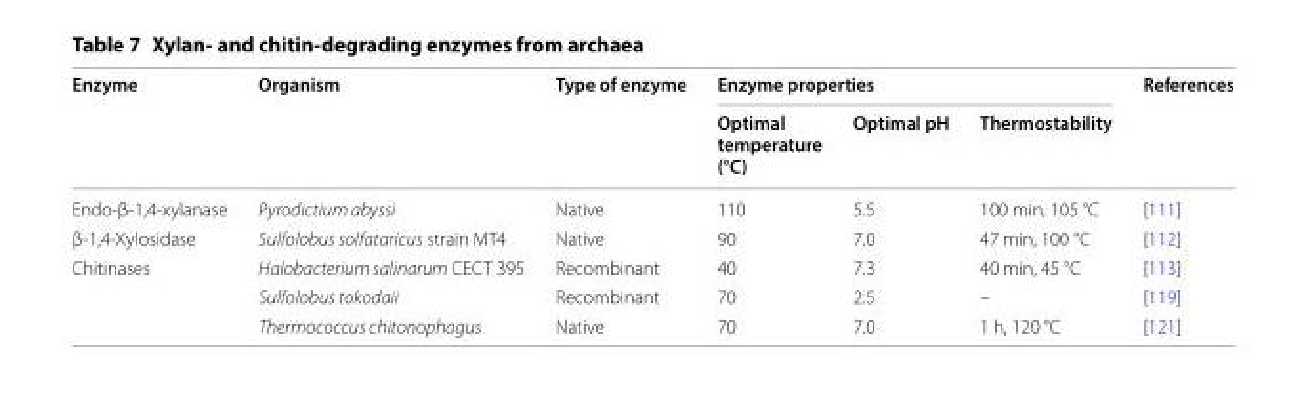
<table><thead><tr><td rowspan="2">Enzyme</td><td rowspan="2">Organism</td><td rowspan="2">Type of enzyme</td><td colspan="3">Enzyme properties</td><td rowspan="2">References</td></tr><tr><td>Optimal temperature (°C)</td><td>Optimal pH</td><td>Thermostability</td></tr></thead><tbody><tr><td>Endo-β-1,4-xylanase</td><td>Pyrodictium abyssi</td><td>Native</td><td>110</td><td>5.5</td><td>100 min, 105 °C</td><td>[111]</td></tr><tr><td>β-1,4-Xylosidase</td><td>Sulfolobus solfataricus strain MT4</td><td>Native</td><td>90</td><td>7.0</td><td>47 min, 100 °C</td><td>[112]</td></tr><tr><td rowspan="3">Chitinases</td><td>Halobacterium salinarum CECT 395</td><td>Recombinant</td><td>40</td><td>7.3</td><td>40 min, 45 °C</td><td>[113]</td></tr><tr><td>Sulfolobus tokodaii</td><td>Recombinant</td><td>70</td><td>2.5</td><td>–</td><td>[119]</td></tr><tr><td>Thermococcus chitonophagus</td><td>Native</td><td>70</td><td>7.0</td><td>1 h, 120 °C</td><td>[121]</td></tr></tbody></table>